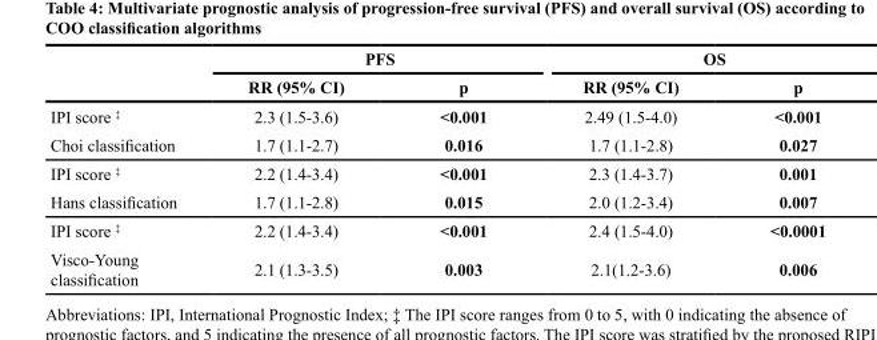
<table><thead><tr><td rowspan="2"></td><td colspan="2">PFS</td><td colspan="2">OS</td></tr><tr><td>RR (95% CI)</td><td>p</td><td>RR (95% CI)</td><td>p</td></tr></thead><tbody><tr><td>IPI score <sup>‡</sup></td><td>2.3 (1.5-3.6)</td><td>&lt;0.001</td><td>2.49 (1.5-4.0)</td><td>&lt;0.001</td></tr><tr><td>Choi classification</td><td>1.7 (1.1-2.7)</td><td>0.016</td><td>1.7 (1.1-2.8)</td><td>0.027</td></tr><tr><td>IPI score <sup>‡</sup></td><td>2.2 (1.4-3.4)</td><td>&lt;0.001</td><td>2.3 (1.4-3.7)</td><td>0.001</td></tr><tr><td>Hans classification</td><td>1.7 (1.1-2.8)</td><td>0.015</td><td>2.0 (1.2-3.4)</td><td>0.007</td></tr><tr><td>IPI score <sup>‡</sup></td><td>2.2 (1.4-3.4)</td><td>&lt;0.001</td><td>2.4 (1.5-4.0)</td><td>&lt;0.0001</td></tr><tr><td>Visco-Young classification</td><td>2.1 (1.3-3.5)</td><td>0.003</td><td>2.1(1.2-3.6)</td><td>0.006</td></tr></tbody></table>